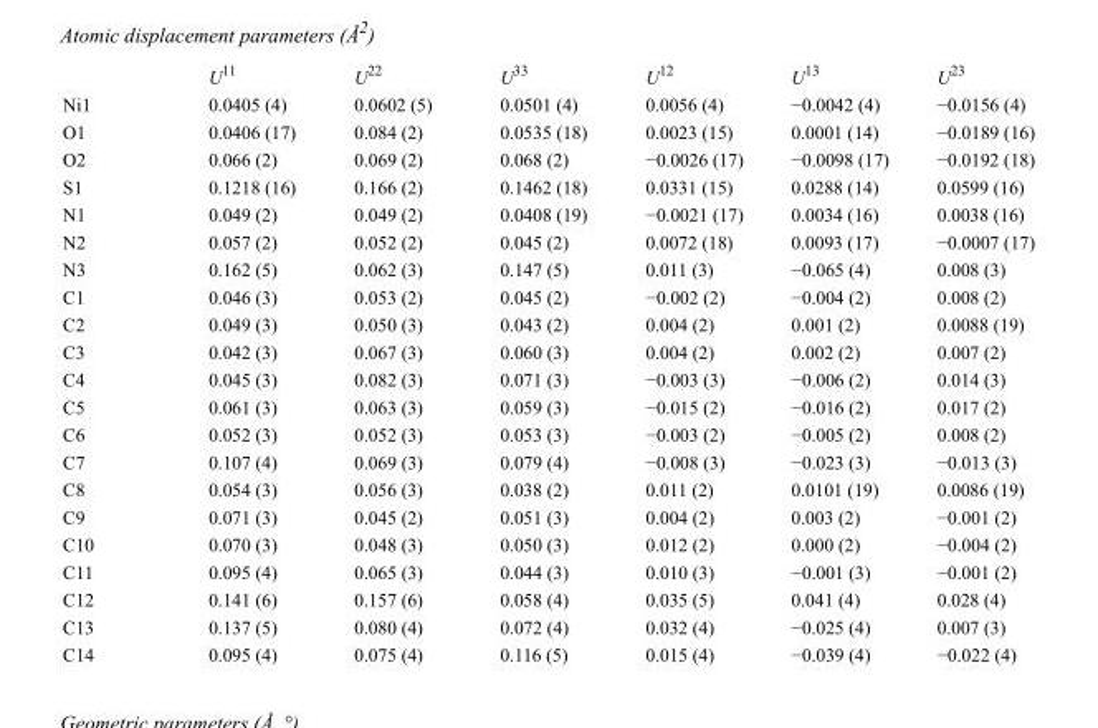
<table><thead><tr><td></td><td>U<sup>11</sup></td><td>U<sup>22</sup></td><td>U<sup>33</sup></td><td>U<sup>12</sup></td><td>U<sup>13</sup></td><td>U<sup>23</sup></td></tr></thead><tbody><tr><td>Ni1</td><td>0.0405 (4)</td><td>0.0602 (5)</td><td>0.0501 (4)</td><td>0.0056 (4)</td><td>−0.0042 (4)</td><td>−0.0156 (4)</td></tr><tr><td>O1</td><td>0.0406 (17)</td><td>0.084 (2)</td><td>0.0535 (18)</td><td>0.0023 (15)</td><td>0.0001 (14)</td><td>−0.0189 (16)</td></tr><tr><td>O2</td><td>0.066 (2)</td><td>0.069 (2)</td><td>0.068 (2)</td><td>−0.0026 (17)</td><td>−0.0098 (17)</td><td>−0.0192 (18)</td></tr><tr><td>S1</td><td>0.1218 (16)</td><td>0.166 (2)</td><td>0.1462 (18)</td><td>0.0331 (15)</td><td>0.0288 (14)</td><td>0.0599 (16)</td></tr><tr><td>N1</td><td>0.049 (2)</td><td>0.049 (2)</td><td>0.0408 (19)</td><td>−0.0021 (17)</td><td>0.0034 (16)</td><td>0.0038 (16)</td></tr><tr><td>N2</td><td>0.057 (2)</td><td>0.052 (2)</td><td>0.045 (2)</td><td>0.0072 (18)</td><td>0.0093 (17)</td><td>−0.0007 (17)</td></tr><tr><td>N3</td><td>0.162 (5)</td><td>0.062 (3)</td><td>0.147 (5)</td><td>0.011 (3)</td><td>−0.065 (4)</td><td>0.008 (3)</td></tr><tr><td>C1</td><td>0.046 (3)</td><td>0.053 (2)</td><td>0.045 (2)</td><td>−0.002 (2)</td><td>−0.004 (2)</td><td>0.008 (2)</td></tr><tr><td>C2</td><td>0.049 (3)</td><td>0.050 (3)</td><td>0.043 (2)</td><td>0.004 (2)</td><td>0.001 (2)</td><td>0.0088 (19)</td></tr><tr><td>C3</td><td>0.042 (3)</td><td>0.067 (3)</td><td>0.060 (3)</td><td>0.004 (2)</td><td>0.002 (2)</td><td>0.007 (2)</td></tr><tr><td>C4</td><td>0.045 (3)</td><td>0.082 (3)</td><td>0.071 (3)</td><td>−0.003 (3)</td><td>−0.006 (2)</td><td>0.014 (3)</td></tr><tr><td>C5</td><td>0.061 (3)</td><td>0.063 (3)</td><td>0.059 (3)</td><td>−0.015 (2)</td><td>−0.016 (2)</td><td>0.017 (2)</td></tr><tr><td>C6</td><td>0.052 (3)</td><td>0.052 (3)</td><td>0.053 (3)</td><td>−0.003 (2)</td><td>−0.005 (2)</td><td>0.008 (2)</td></tr><tr><td>C7</td><td>0.107 (4)</td><td>0.069 (3)</td><td>0.079 (4)</td><td>−0.008 (3)</td><td>−0.023 (3)</td><td>−0.013 (3)</td></tr><tr><td>C8</td><td>0.054 (3)</td><td>0.056 (3)</td><td>0.038 (2)</td><td>0.011 (2)</td><td>0.0101 (19)</td><td>0.0086 (19)</td></tr><tr><td>C9</td><td>0.071 (3)</td><td>0.045 (2)</td><td>0.051 (3)</td><td>0.004 (2)</td><td>0.003 (2)</td><td>−0.001 (2)</td></tr><tr><td>C10</td><td>0.070 (3)</td><td>0.048 (3)</td><td>0.050 (3)</td><td>0.012 (2)</td><td>0.000 (2)</td><td>−0.004 (2)</td></tr><tr><td>C11</td><td>0.095 (4)</td><td>0.065 (3)</td><td>0.044 (3)</td><td>0.010 (3)</td><td>−0.001 (3)</td><td>−0.001 (2)</td></tr><tr><td>C12</td><td>0.141 (6)</td><td>0.157 (6)</td><td>0.058 (4)</td><td>0.035 (5)</td><td>0.041 (4)</td><td>0.028 (4)</td></tr><tr><td>C13</td><td>0.137 (5)</td><td>0.080 (4)</td><td>0.072 (4)</td><td>0.032 (4)</td><td>−0.025 (4)</td><td>0.007 (3)</td></tr><tr><td>C14</td><td>0.095 (4)</td><td>0.075 (4)</td><td>0.116 (5)</td><td>0.015 (4)</td><td>−0.039 (4)</td><td>−0.022 (4)</td></tr></tbody></table>